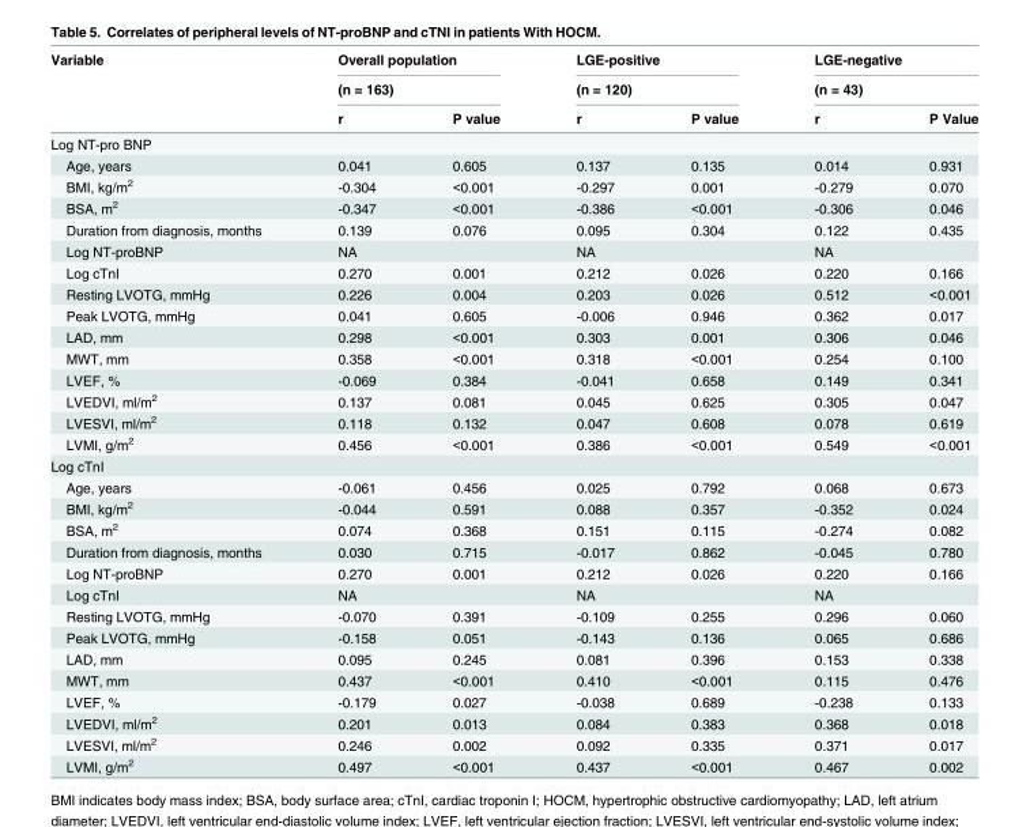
<table><thead><tr><td rowspan="3">Variable</td><td rowspan="2" colspan="2">Overall population (n = 163)</td><td rowspan="2" colspan="2">LGE-positive (n = 120)</td><td rowspan="2" colspan="2">LGE-negative (n = 43)</td></tr><tr></tr><tr><td>r</td><td>P value</td><td>r</td><td>P value</td><td>r</td><td>P Value</td></tr></thead><tbody><tr><td colspan="7">Log NT-pro BNP</td></tr><tr><td>Age, years</td><td>0.041</td><td>0.605</td><td>0.137</td><td>0.135</td><td>0.014</td><td>0.931</td></tr><tr><td>BMI, kg/m<sup>2</sup></td><td>-0.304</td><td>&lt;0.001</td><td>-0.297</td><td>0.001</td><td>-0.279</td><td>0.070</td></tr><tr><td>BSA, m<sup>2</sup></td><td>-0.347</td><td>&lt;0.001</td><td>-0.386</td><td>&lt;0.001</td><td>-0.306</td><td>0.046</td></tr><tr><td>Duration from diagnosis, months</td><td>0.139</td><td>0.076</td><td>0.095</td><td>0.304</td><td>0.122</td><td>0.435</td></tr><tr><td>Log NT-proBNP</td><td>NA</td><td></td><td>NA</td><td></td><td>NA</td><td></td></tr><tr><td>Log cTnI</td><td>0.270</td><td>0.001</td><td>0.212</td><td>0.026</td><td>0.220</td><td>0.166</td></tr><tr><td>Resting LVOTG, mmHg</td><td>0.226</td><td>0.004</td><td>0.203</td><td>0.026</td><td>0.512</td><td>&lt;0.001</td></tr><tr><td>Peak LVOTG, mmHg</td><td>0.041</td><td>0.605</td><td>-0.006</td><td>0.946</td><td>0.362</td><td>0.017</td></tr><tr><td>LAD, mm</td><td>0.298</td><td>&lt;0.001</td><td>0.303</td><td>0.001</td><td>0.306</td><td>0.046</td></tr><tr><td>MWT, mm</td><td>0.358</td><td>&lt;0.001</td><td>0.318</td><td>&lt;0.001</td><td>0.254</td><td>0.100</td></tr><tr><td>LVEF, %</td><td>-0.069</td><td>0.384</td><td>-0.041</td><td>0.658</td><td>0.149</td><td>0.341</td></tr><tr><td>LVEDVI, ml/m<sup>2</sup></td><td>0.137</td><td>0.081</td><td>0.045</td><td>0.625</td><td>0.305</td><td>0.047</td></tr><tr><td>LVESVI, ml/m<sup>2</sup></td><td>0.118</td><td>0.132</td><td>0.047</td><td>0.608</td><td>0.078</td><td>0.619</td></tr><tr><td>LVMI, g/m<sup>2</sup></td><td>0.456</td><td>&lt;0.001</td><td>0.386</td><td>&lt;0.001</td><td>0.549</td><td>&lt;0.001</td></tr><tr><td colspan="7">Log cTnI</td></tr><tr><td>Age, years</td><td>-0.061</td><td>0.456</td><td>0.025</td><td>0.792</td><td>0.068</td><td>0.673</td></tr><tr><td>BMI, kg/m<sup>2</sup></td><td>-0.044</td><td>0.591</td><td>0.088</td><td>0.357</td><td>-0.352</td><td>0.024</td></tr><tr><td>BSA, m<sup>2</sup></td><td>0.074</td><td>0.368</td><td>0.151</td><td>0.115</td><td>-0.274</td><td>0.082</td></tr><tr><td>Duration from diagnosis, months</td><td>0.030</td><td>0.715</td><td>-0.017</td><td>0.862</td><td>-0.045</td><td>0.780</td></tr><tr><td>Log NT-proBNP</td><td>0.270</td><td>0.001</td><td>0.212</td><td>0.026</td><td>0.220</td><td>0.166</td></tr><tr><td>Log cTnI</td><td>NA</td><td></td><td>NA</td><td></td><td>NA</td><td></td></tr><tr><td>Resting LVOTG, mmHg</td><td>-0.070</td><td>0.391</td><td>-0.109</td><td>0.255</td><td>0.296</td><td>0.060</td></tr><tr><td>Peak LVOTG, mmHg</td><td>-0.158</td><td>0.051</td><td>-0.143</td><td>0.136</td><td>0.065</td><td>0.686</td></tr><tr><td>LAD, mm</td><td>0.095</td><td>0.245</td><td>0.081</td><td>0.396</td><td>0.153</td><td>0.338</td></tr><tr><td>MWT, mm</td><td>0.437</td><td>&lt;0.001</td><td>0.410</td><td>&lt;0.001</td><td>0.115</td><td>0.476</td></tr><tr><td>LVEF, %</td><td>-0.179</td><td>0.027</td><td>-0.038</td><td>0.689</td><td>-0.238</td><td>0.133</td></tr><tr><td>LVEDVI, ml/m<sup>2</sup></td><td>0.201</td><td>0.013</td><td>0.084</td><td>0.383</td><td>0.368</td><td>0.018</td></tr><tr><td>LVESVI, ml/m<sup>2</sup></td><td>0.246</td><td>0.002</td><td>0.092</td><td>0.335</td><td>0.371</td><td>0.017</td></tr><tr><td>LVMI, g/m<sup>2</sup></td><td>0.497</td><td>&lt;0.001</td><td>0.437</td><td>&lt;0.001</td><td>0.467</td><td>0.002</td></tr></tbody></table>